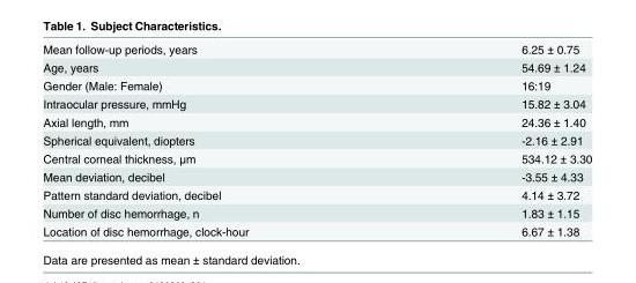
<table><tbody><tr><td>Mean follow-up periods, years</td><td>6.25 ± 0.75</td></tr><tr><td>Age, years</td><td>54.69 ± 1.24</td></tr><tr><td>Gender (Male: Female)</td><td>16:19</td></tr><tr><td>Intraocular pressure, mmHg</td><td>15.82 ± 3.04</td></tr><tr><td>Axial length, mm</td><td>24.36 ± 1.40</td></tr><tr><td>Spherical equivalent, diopters</td><td>-2.16 ± 2.91</td></tr><tr><td>Central corneal thickness, μm</td><td>534.12 ± 3.30</td></tr><tr><td>Mean deviation, decibel</td><td>-3.55 ± 4.33</td></tr><tr><td>Pattern standard deviation, decibel</td><td>4.14 ± 3.72</td></tr><tr><td>Number of disc hemorrhage, n</td><td>1.83 ± 1.15</td></tr><tr><td>Location of disc hemorrhage, clock-hour</td><td>6.67 ± 1.38</td></tr></tbody></table>